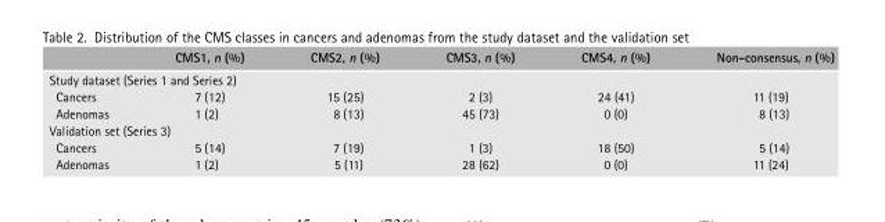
<table><thead><tr><td></td><td>CMS1, n (%)</td><td>CMS2, n (%)</td><td>CMS3, n (%)</td><td>CMS4, n (%)</td><td>Non-consensus, n (%)</td></tr></thead><tbody><tr><td colspan="6">Study dataset (Series 1 and Series 2)</td></tr><tr><td>Cancers</td><td>7 (12)</td><td>15 (25)</td><td>2 (3)</td><td>24 (41)</td><td>11 (19)</td></tr><tr><td>Adenomas</td><td>1 (2)</td><td>8 (13)</td><td>45 (73)</td><td>0 (0)</td><td>8 (13)</td></tr><tr><td colspan="6">Validation set (Series 3)</td></tr><tr><td>Cancers</td><td>5 (14)</td><td>7 (19)</td><td>1 (3)</td><td>18 (50)</td><td>5 (14)</td></tr><tr><td>Adenomas</td><td>1 (2)</td><td>5 (11)</td><td>28 (62)</td><td>0 (0)</td><td>11 (24)</td></tr></tbody></table>